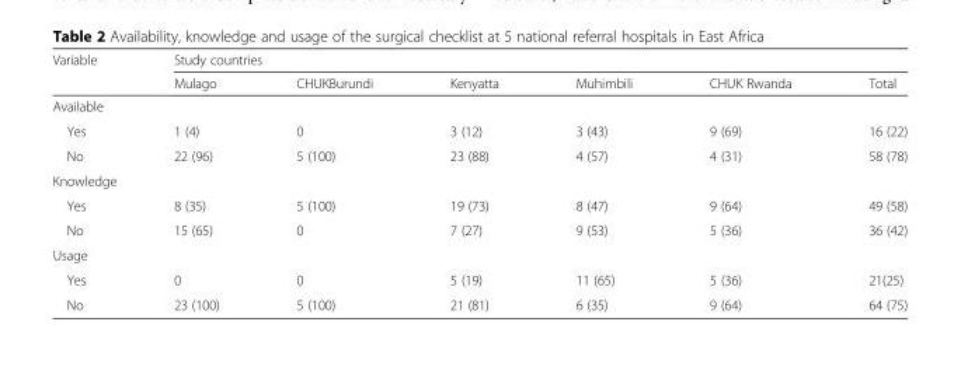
<table><thead><tr><td rowspan="2">Variable</td><td colspan="6">Study countries</td></tr><tr><td>Mulago</td><td>CHUKBurundi</td><td>Kenyatta</td><td>Muhimbili</td><td>CHUK Rwanda</td><td>Total</td></tr></thead><tbody><tr><td colspan="7">Available</td></tr><tr><td>Yes</td><td>1 (4)</td><td>0</td><td>3 (12)</td><td>3 (43)</td><td>9 (69)</td><td>16 (22)</td></tr><tr><td>No</td><td>22 (96)</td><td>5 (100)</td><td>23 (88)</td><td>4 (57)</td><td>4 (31)</td><td>58 (78)</td></tr><tr><td colspan="7">Knowledge</td></tr><tr><td>Yes</td><td>8 (35)</td><td>5 (100)</td><td>19 (73)</td><td>8 (47)</td><td>9 (64)</td><td>49 (58)</td></tr><tr><td>No</td><td>15 (65)</td><td>0</td><td>7 (27)</td><td>9 (53)</td><td>5 (36)</td><td>36 (42)</td></tr><tr><td colspan="7">Usage</td></tr><tr><td>Yes</td><td>0</td><td>0</td><td>5 (19)</td><td>11 (65)</td><td>5 (36)</td><td>21(25)</td></tr><tr><td>No</td><td>23 (100)</td><td>5 (100)</td><td>21 (81)</td><td>6 (35)</td><td>9 (64)</td><td>64 (75)</td></tr></tbody></table>